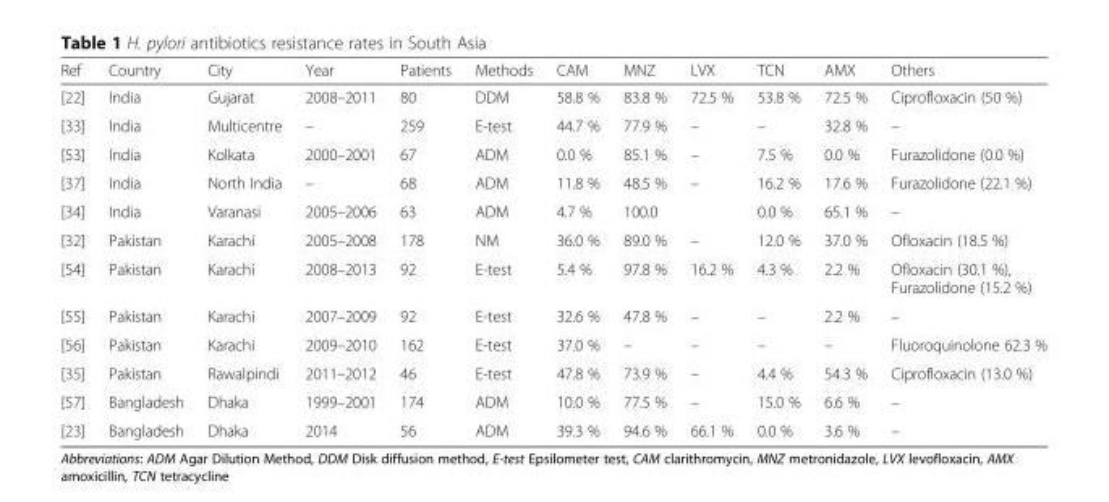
<table><thead><tr><td>Ref</td><td>Country</td><td>City</td><td>Year</td><td>Patients</td><td>Methods</td><td>CAM</td><td>MNZ</td><td>LVX</td><td>TCN</td><td>AMX</td><td>Others</td></tr></thead><tbody><tr><td>[22]</td><td>India</td><td>Gujarat</td><td>2008–2011</td><td>80</td><td>DDM</td><td>58.8 %</td><td>83.8 %</td><td>72.5 %</td><td>53.8 %</td><td>72.5 %</td><td>Ciprofloxacin (50 %)</td></tr><tr><td>[33]</td><td>India</td><td>Multicentre</td><td>–</td><td>259</td><td>E-test</td><td>44.7 %</td><td>77.9 %</td><td>–</td><td>–</td><td>32.8 %</td><td>–</td></tr><tr><td>[53]</td><td>India</td><td>Kolkata</td><td>2000–2001</td><td>67</td><td>ADM</td><td>0.0 %</td><td>85.1 %</td><td>–</td><td>7.5 %</td><td>0.0 %</td><td>Furazolidone (0.0 %)</td></tr><tr><td>[37]</td><td>India</td><td>North India</td><td>–</td><td>68</td><td>ADM</td><td>11.8 %</td><td>48.5 %</td><td>–</td><td>16.2 %</td><td>17.6 %</td><td>Furazolidone (22.1 %)</td></tr><tr><td>[34]</td><td>India</td><td>Varanasi</td><td>2005–2006</td><td>63</td><td>ADM</td><td>4.7 %</td><td>100.0</td><td></td><td>0.0 %</td><td>65.1 %</td><td>–</td></tr><tr><td>[32]</td><td>Pakistan</td><td>Karachi</td><td>2005–2008</td><td>178</td><td>NM</td><td>36.0 %</td><td>89.0 %</td><td>–</td><td>12.0 %</td><td>37.0 %</td><td>Ofloxacin (18.5 %)</td></tr><tr><td>[54]</td><td>Pakistan</td><td>Karachi</td><td>2008–2013</td><td>92</td><td>E-test</td><td>5.4 %</td><td>97.8 %</td><td>16.2 %</td><td>4.3 %</td><td>2.2 %</td><td>Ofloxacin (30.1 %), Furazolidone (15.2 %)</td></tr><tr><td>[55]</td><td>Pakistan</td><td>Karachi</td><td>2007–2009</td><td>92</td><td>E-test</td><td>32.6 %</td><td>47.8 %</td><td>–</td><td>–</td><td>2.2 %</td><td>–</td></tr><tr><td>[56]</td><td>Pakistan</td><td>Karachi</td><td>2009–2010</td><td>162</td><td>E-test</td><td>37.0 %</td><td>–</td><td>–</td><td>–</td><td>–</td><td>Fluoroquinolone 62.3 %</td></tr><tr><td>[35]</td><td>Pakistan</td><td>Rawalpindi</td><td>2011–2012</td><td>46</td><td>E-test</td><td>47.8 %</td><td>73.9 %</td><td>–</td><td>4.4 %</td><td>54.3 %</td><td>Ciprofloxacin (13.0 %)</td></tr><tr><td>[57]</td><td>Bangladesh</td><td>Dhaka</td><td>1999–2001</td><td>174</td><td>ADM</td><td>10.0 %</td><td>77.5 %</td><td>–</td><td>15.0 %</td><td>6.6 %</td><td>–</td></tr><tr><td>[23]</td><td>Bangladesh</td><td>Dhaka</td><td>2014</td><td>56</td><td>ADM</td><td>39.3 %</td><td>94.6 %</td><td>66.1 %</td><td>0.0 %</td><td>3.6 %</td><td>–</td></tr></tbody></table>